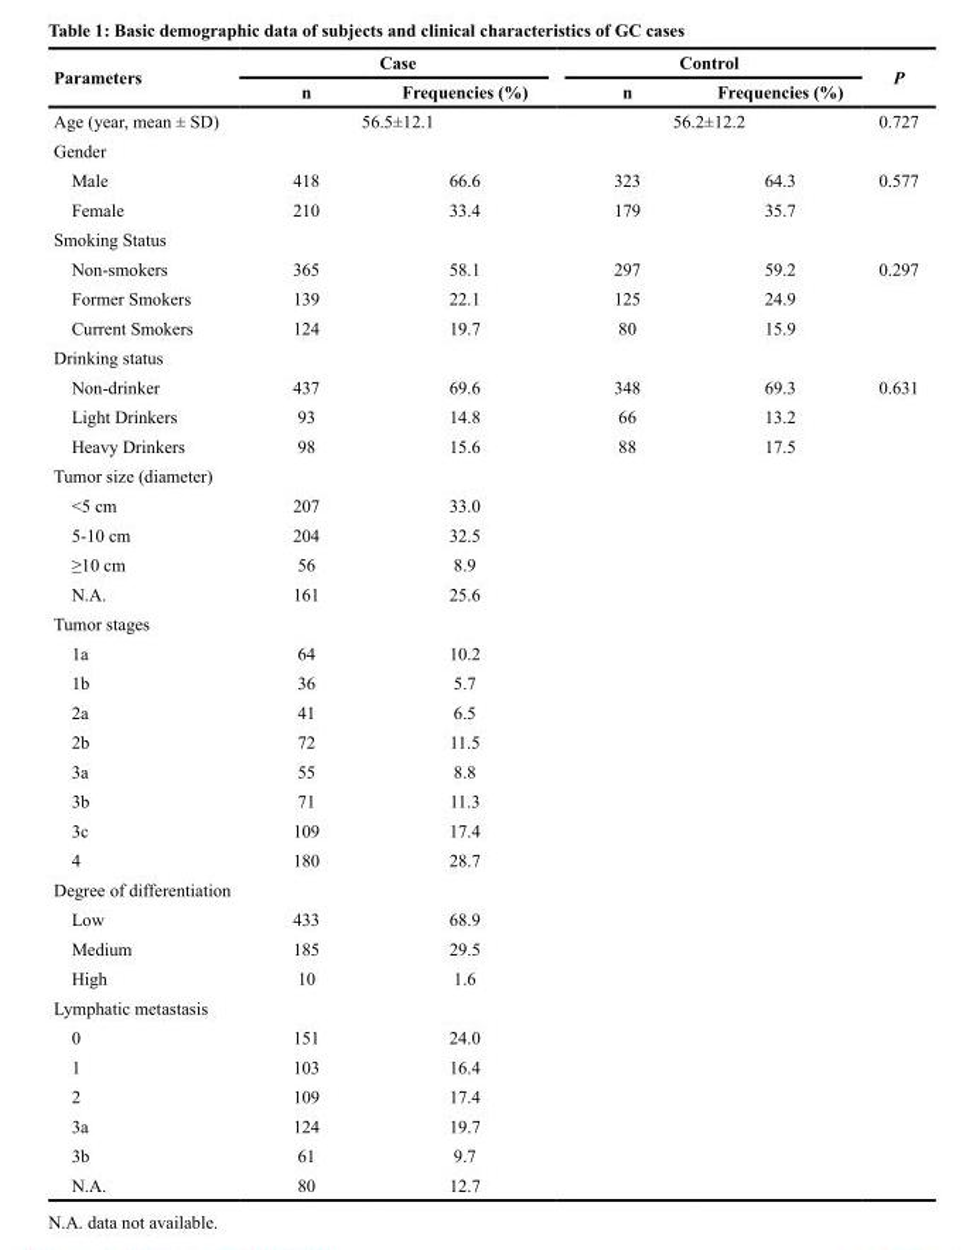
<table><thead><tr><td rowspan="2">Parameters</td><td colspan="2">Case</td><td colspan="2">Control</td><td rowspan="2">P</td></tr><tr><td>n</td><td>Frequencies (%)</td><td>n</td><td>Frequencies (%)</td></tr></thead><tbody><tr><td>Age (year, mean ± SD)</td><td colspan="2">56.5±12.1</td><td colspan="2">56.2±12.2</td><td>0.727</td></tr><tr><td colspan="6">Gender</td></tr><tr><td>Male</td><td>418</td><td>66.6</td><td>323</td><td>64.3</td><td>0.577</td></tr><tr><td>Female</td><td>210</td><td>33.4</td><td>179</td><td>35.7</td><td></td></tr><tr><td colspan="6">Smoking Status</td></tr><tr><td>Non-smokers</td><td>365</td><td>58.1</td><td>297</td><td>59.2</td><td>0.297</td></tr><tr><td>Former Smokers</td><td>139</td><td>22.1</td><td>125</td><td>24.9</td><td></td></tr><tr><td>Current Smokers</td><td>124</td><td>19.7</td><td>80</td><td>15.9</td><td></td></tr><tr><td colspan="6">Drinking status</td></tr><tr><td>Non-drinker</td><td>437</td><td>69.6</td><td>348</td><td>69.3</td><td>0.631</td></tr><tr><td>Light Drinkers</td><td>93</td><td>14.8</td><td>66</td><td>13.2</td><td></td></tr><tr><td>Heavy Drinkers</td><td>98</td><td>15.6</td><td>88</td><td>17.5</td><td></td></tr><tr><td colspan="6">Tumor size (diameter)</td></tr><tr><td>&lt;5 cm</td><td>207</td><td>33.0</td><td></td><td></td><td></td></tr><tr><td>5-10 cm</td><td>204</td><td>32.5</td><td></td><td></td><td></td></tr><tr><td>≥10 cm</td><td>56</td><td>8.9</td><td></td><td></td><td></td></tr><tr><td>N.A.</td><td>161</td><td>25.6</td><td></td><td></td><td></td></tr><tr><td colspan="6">Tumor stages</td></tr><tr><td>1a</td><td>64</td><td>10.2</td><td></td><td></td><td></td></tr><tr><td>1b</td><td>36</td><td>5.7</td><td></td><td></td><td></td></tr><tr><td>2a</td><td>41</td><td>6.5</td><td></td><td></td><td></td></tr><tr><td>2b</td><td>72</td><td>11.5</td><td></td><td></td><td></td></tr><tr><td>3a</td><td>55</td><td>8.8</td><td></td><td></td><td></td></tr><tr><td>3b</td><td>71</td><td>11.3</td><td></td><td></td><td></td></tr><tr><td>3c</td><td>109</td><td>17.4</td><td></td><td></td><td></td></tr><tr><td>4</td><td>180</td><td>28.7</td><td></td><td></td><td></td></tr><tr><td colspan="6">Degree of differentiation</td></tr><tr><td>Low</td><td>433</td><td>68.9</td><td></td><td></td><td></td></tr><tr><td>Medium</td><td>185</td><td>29.5</td><td></td><td></td><td></td></tr><tr><td>High</td><td>10</td><td>1.6</td><td></td><td></td><td></td></tr><tr><td colspan="6">Lymphatic metastasis</td></tr><tr><td>0</td><td>151</td><td>24.0</td><td></td><td></td><td></td></tr><tr><td>1</td><td>103</td><td>16.4</td><td></td><td></td><td></td></tr><tr><td>2</td><td>109</td><td>17.4</td><td></td><td></td><td></td></tr><tr><td>3a</td><td>124</td><td>19.7</td><td></td><td></td><td></td></tr><tr><td>3b</td><td>61</td><td>9.7</td><td></td><td></td><td></td></tr><tr><td>N.A.</td><td>80</td><td>12.7</td><td></td><td></td><td></td></tr></tbody></table>